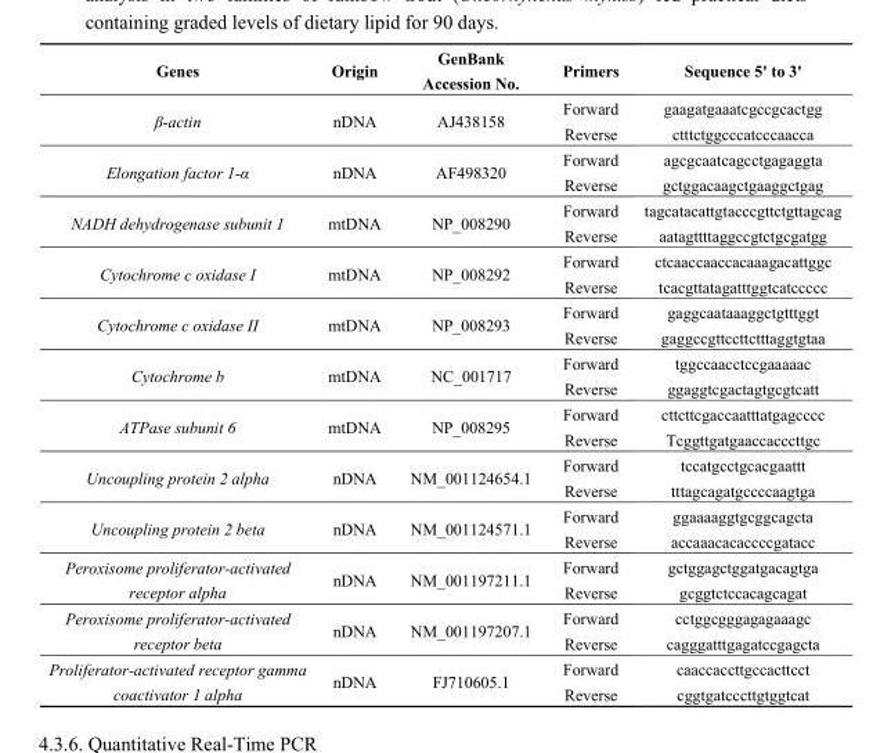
<table><thead><tr><td>Genes</td><td>Origin</td><td>GenBank Accession No.</td><td>Primers</td><td>Sequence 5&#x27; to 3&#x27;</td></tr></thead><tbody><tr><td rowspan="2">β-actin</td><td rowspan="2">nDNA</td><td rowspan="2">AJ438158</td><td>Forward</td><td>gaagatgaaatcgccgcactgg</td></tr><tr><td>Reverse</td><td>ctttctggcccatcccaacca</td></tr><tr><td rowspan="2">Elongation factor 1-α</td><td rowspan="2">nDNA</td><td rowspan="2">AF498320</td><td>Forward</td><td>agcgcaatcagcctgagaggta</td></tr><tr><td>Reverse</td><td>gctggacaagctgaaggctgag</td></tr><tr><td rowspan="2">NADH dehydrogenase subunit 1</td><td rowspan="2">mtDNA</td><td rowspan="2">NP_008290</td><td>Forward</td><td>tagcatacattgtacccgttctgttagcag</td></tr><tr><td>Reverse</td><td>aatagttttaggccgtctgcgatgg</td></tr><tr><td rowspan="2">Cytochrome c oxidase I</td><td rowspan="2">mtDNA</td><td rowspan="2">NP_008292</td><td>Forward</td><td>ctcaaccaaccacaaagacattggc</td></tr><tr><td>Reverse</td><td>tcacgttatagatttggtcatccccc</td></tr><tr><td rowspan="2">Cytochrome c oxidase II</td><td rowspan="2">mtDNA</td><td rowspan="2">NP_008293</td><td>Forward</td><td>gaggcaataaaggctgtttggt</td></tr><tr><td>Reverse</td><td>gaggccgttccttctttaggtgtaa</td></tr><tr><td rowspan="2">Cytochrome b</td><td rowspan="2">mtDNA</td><td rowspan="2">NC_001717</td><td>Forward</td><td>tggccaacctccgaaaaac</td></tr><tr><td>Reverse</td><td>ggaggtcgactagtgcgtcatt</td></tr><tr><td rowspan="2">ATPase subunit 6</td><td rowspan="2">mtDNA</td><td rowspan="2">NP_008295</td><td>Forward</td><td>cttcttcgaccaatttatgagcccc</td></tr><tr><td>Reverse</td><td>Tcggttgatgaaccacccttgc</td></tr><tr><td rowspan="2">Uncoupling protein 2 alpha</td><td rowspan="2">nDNA</td><td rowspan="2">NM_001124654.1</td><td>Forward</td><td>tccatgcctgcacgaattt</td></tr><tr><td>Reverse</td><td>tttagcagatgccccaagtga</td></tr><tr><td rowspan="2">Uncoupling protein 2 beta</td><td rowspan="2">nDNA</td><td rowspan="2">NM_001124571.1</td><td>Forward</td><td>ggaaaaggtgcggcagcta</td></tr><tr><td>Reverse</td><td>accaaacacaccccgatacc</td></tr><tr><td rowspan="2">Peroxisome proliferator-activated receptor alpha</td><td rowspan="2">nDNA</td><td rowspan="2">NM_001197211.1</td><td>Forward</td><td>gctggagctggatgacagtga</td></tr><tr><td>Reverse</td><td>gcggtctccacagcagat</td></tr><tr><td rowspan="2">Peroxisome proliferator-activated receptor beta</td><td rowspan="2">nDNA</td><td rowspan="2">NM_001197207.1</td><td>Forward</td><td>cctggcgggagagaaagc</td></tr><tr><td>Reverse</td><td>cagggatttgagatccgagcta</td></tr><tr><td rowspan="2">Proliferator-activated receptor gamma coactivator 1 alpha</td><td rowspan="2">nDNA</td><td rowspan="2">FJ710605.1</td><td>Forward</td><td>caaccaccttgccacttcct</td></tr><tr><td>Reverse</td><td>cggtgatcccttgtggtcat</td></tr></tbody></table>